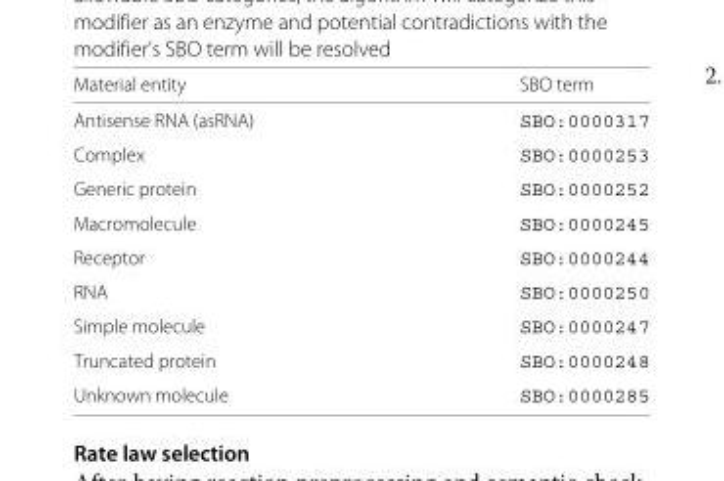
<table><thead><tr><td>Material entity</td><td>SBO term</td></tr></thead><tbody><tr><td>Antisense RNA (asRNA)</td><td>SBO:0000317</td></tr><tr><td>Complex</td><td>SBO:0000253</td></tr><tr><td>Generic protein</td><td>SBO:0000252</td></tr><tr><td>Macromolecule</td><td>SBO:0000245</td></tr><tr><td>Receptor</td><td>SBO:0000244</td></tr><tr><td>RNA</td><td>SBO:0000250</td></tr><tr><td>Simple molecule</td><td>SBO:0000247</td></tr><tr><td>Truncated protein</td><td>SBO:0000248</td></tr><tr><td>Unknown molecule</td><td>SBO:0000285</td></tr></tbody></table>